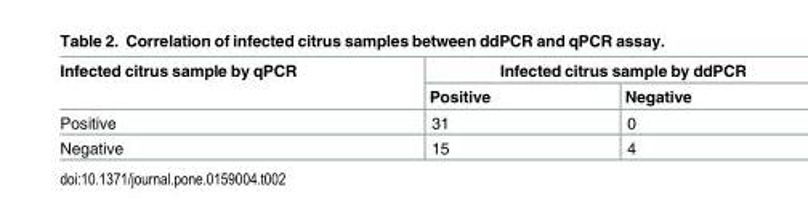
<table><thead><tr><td rowspan="2">Infected citrus sample by qPCR</td><td colspan="2">Infected citrus sample by ddPCR</td></tr><tr><td>Positive</td><td>Negative</td></tr></thead><tbody><tr><td>Positive</td><td>31</td><td>0</td></tr><tr><td>Negative</td><td>15</td><td>4</td></tr></tbody></table>